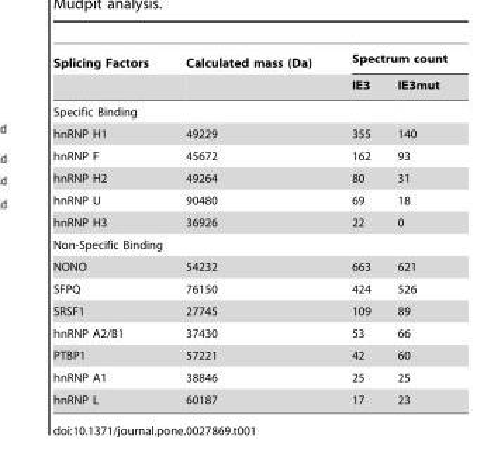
<table><thead><tr><td rowspan="2">Splicing Factors</td><td rowspan="2">Calculated mass (Da)</td><td colspan="2">Spectrum count</td></tr><tr><td>IE3</td><td>IE3mut</td></tr></thead><tbody><tr><td colspan="4">Specific Binding</td></tr><tr><td>hnRNP H1</td><td>49229</td><td>355</td><td>140</td></tr><tr><td>hnRNP F</td><td>45672</td><td>162</td><td>93</td></tr><tr><td>hnRNP H2</td><td>49264</td><td>80</td><td>31</td></tr><tr><td>hnRNP U</td><td>90480</td><td>69</td><td>18</td></tr><tr><td>hnRNP H3</td><td>36926</td><td>22</td><td>0</td></tr><tr><td colspan="4">Non-Specific Binding</td></tr><tr><td>NONO</td><td>54232</td><td>663</td><td>621</td></tr><tr><td>SFPQ</td><td>76150</td><td>424</td><td>526</td></tr><tr><td>SRSF1</td><td>27745</td><td>109</td><td>89</td></tr><tr><td>hnRNP A2/B1</td><td>37430</td><td>53</td><td>66</td></tr><tr><td>PTBP1</td><td>57221</td><td>42</td><td>60</td></tr><tr><td>hnRNP A1</td><td>38846</td><td>25</td><td>25</td></tr><tr><td>hnRNP L</td><td>60187</td><td>17</td><td>23</td></tr></tbody></table>